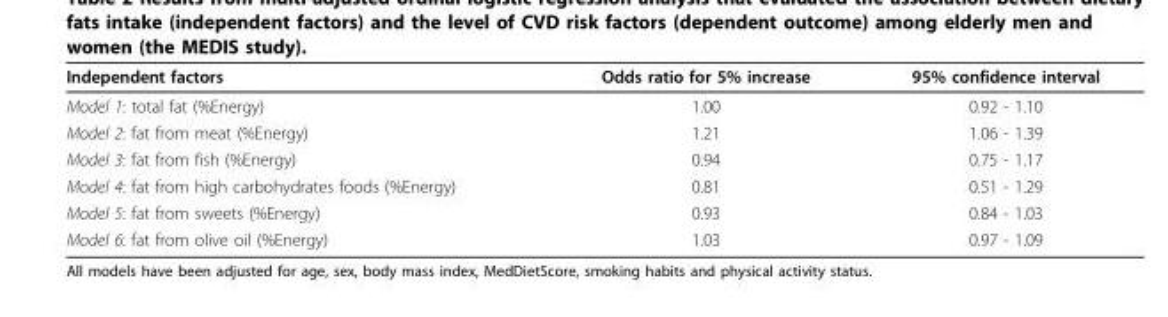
<table><thead><tr><td>Independent factors</td><td>Odds ratio for 5% increase</td><td>95% confidence interval</td></tr></thead><tbody><tr><td>Model 1: total fat (%Energy)</td><td>1.00</td><td>0.92 - 1.10</td></tr><tr><td>Model 2: fat from meat (%Energy)</td><td>1.21</td><td>1.06 - 1.39</td></tr><tr><td>Model 3: fat from fish (%Energy)</td><td>0.94</td><td>0.75 - 1.17</td></tr><tr><td>Model 4: fat from high carbohydrates foods (%Energy)</td><td>0.81</td><td>0.51 - 1.29</td></tr><tr><td>Model 5: fat from sweets (%Energy)</td><td>0.93</td><td>0.84 - 1.03</td></tr><tr><td>Model 6: fat from olive oil (%Energy)</td><td>1.03</td><td>0.97 - 1.09</td></tr></tbody></table>